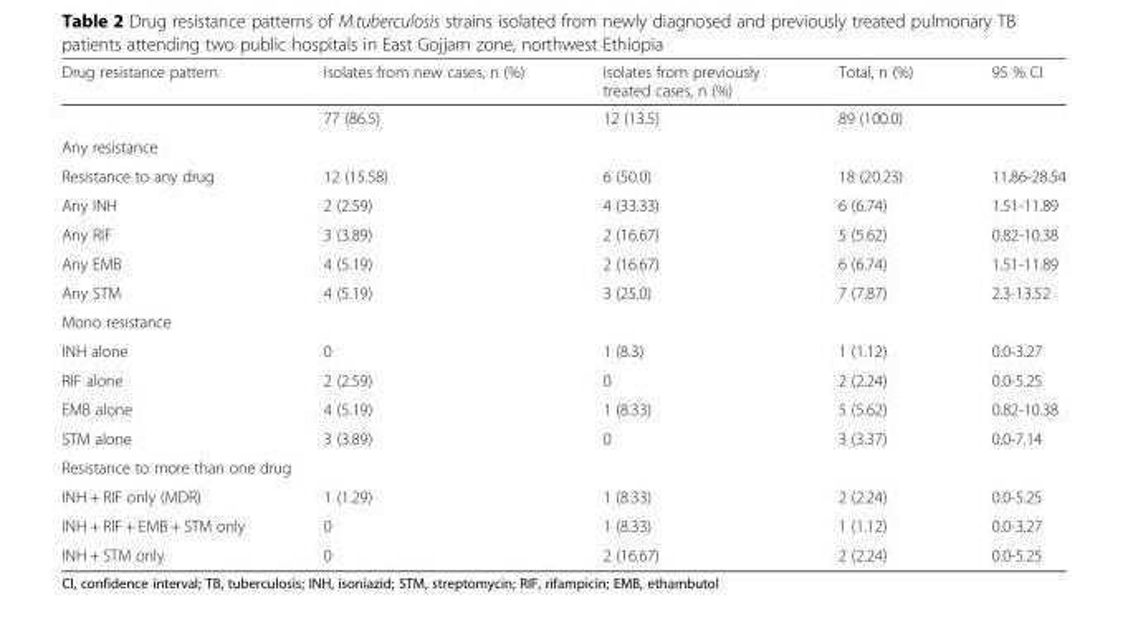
<table><thead><tr><td>Drug resistance pattern</td><td>Isolates from new cases, n (%)</td><td>Isolates from previously treated cases, n (%)</td><td>Total, n (%)</td><td>95 % CI</td></tr></thead><tbody><tr><td></td><td>77 (86.5)</td><td>12 (13.5)</td><td>89 (100.0)</td><td></td></tr><tr><td colspan="5">Any resistance</td></tr><tr><td>Resistance to any drug</td><td>12 (15.58)</td><td>6 (50.0)</td><td>18 (20.23)</td><td>11.86-28.54</td></tr><tr><td>Any INH</td><td>2 (2.59)</td><td>4 (33.33)</td><td>6 (6.74)</td><td>1.51-11.89</td></tr><tr><td>Any RIF</td><td>3 (3.89)</td><td>2 (16.67)</td><td>5 (5.62)</td><td>0.82-10.38</td></tr><tr><td>Any EMB</td><td>4 (5.19)</td><td>2 (16.67)</td><td>6 (6.74)</td><td>1.51-11.89</td></tr><tr><td>Any STM</td><td>4 (5.19)</td><td>3 (25.0)</td><td>7 (7.87)</td><td>2.3-13.52</td></tr><tr><td colspan="5">Mono resistance</td></tr><tr><td>INH alone</td><td>0</td><td>1 (8.3)</td><td>1 (1.12)</td><td>0.0-3.27</td></tr><tr><td>RIF alone</td><td>2 (2.59)</td><td>0</td><td>2 (2.24)</td><td>0.0-5.25</td></tr><tr><td>EMB alone</td><td>4 (5.19)</td><td>1 (8.33)</td><td>5 (5.62)</td><td>0.82-10.38</td></tr><tr><td>STM alone</td><td>3 (3.89)</td><td>0</td><td>3 (3.37)</td><td>0.0-7.14</td></tr><tr><td colspan="5">Resistance to more than one drug</td></tr><tr><td>INH + RIF only (MDR)</td><td>1 (1.29)</td><td>1 (8.33)</td><td>2 (2.24)</td><td>0.0-5.25</td></tr><tr><td>INH + RIF + EMB + STM only</td><td>0</td><td>1 (8.33)</td><td>1 (1.12)</td><td>0.0-3.27</td></tr><tr><td>INH + STM only</td><td>0</td><td>2 (16.67)</td><td>2 (2.24)</td><td>0.0-5.25</td></tr></tbody></table>